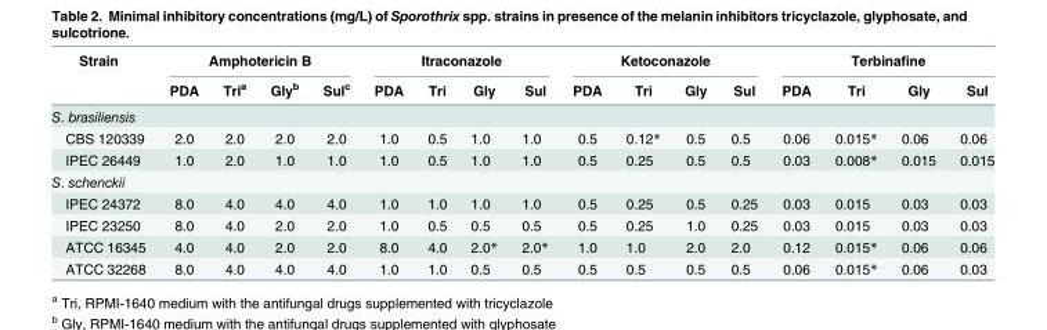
<table><thead><tr><td rowspan="2">Strain</td><td colspan="4">Amphotericin B</td><td colspan="4">Itraconazole</td><td colspan="4">Ketoconazole</td><td colspan="4">Terbinafine</td></tr><tr><td>PDA</td><td>Tri<sup>a</sup></td><td>Gly<sup>b</sup></td><td>Sul<sup>c</sup></td><td>PDA</td><td>Tri</td><td>Gly</td><td>Sul</td><td>PDA</td><td>Tri</td><td>Gly</td><td>Sul</td><td>PDA</td><td>Tri</td><td>Gly</td><td>Sul</td></tr></thead><tbody><tr><td colspan="17">S. brasiliensis</td></tr><tr><td>CBS 120339</td><td>2.0</td><td>2.0</td><td>2.0</td><td>2.0</td><td>1.0</td><td>0.5</td><td>1.0</td><td>1.0</td><td>0.5</td><td>0.12*</td><td>0.5</td><td>0.5</td><td>0.06</td><td>0.015*</td><td>0.06</td><td>0.06</td></tr><tr><td>IPEC 26449</td><td>1.0</td><td>2.0</td><td>1.0</td><td>1.0</td><td>1.0</td><td>0.5</td><td>1.0</td><td>1.0</td><td>0.5</td><td>0.25</td><td>0.5</td><td>0.5</td><td>0.03</td><td>0.008*</td><td>0.015</td><td>0.015</td></tr><tr><td colspan="17">S. schenckii</td></tr><tr><td>IPEC 24372</td><td>8.0</td><td>4.0</td><td>4.0</td><td>4.0</td><td>1.0</td><td>1.0</td><td>1.0</td><td>1.0</td><td>0.5</td><td>0.25</td><td>0.5</td><td>0.25</td><td>0.03</td><td>0.015</td><td>0.03</td><td>0.03</td></tr><tr><td>IPEC 23250</td><td>8.0</td><td>4.0</td><td>2.0</td><td>2.0</td><td>1.0</td><td>0.5</td><td>0.5</td><td>0.5</td><td>0.5</td><td>0.25</td><td>1.0</td><td>0.25</td><td>0.03</td><td>0.015</td><td>0.03</td><td>0.03</td></tr><tr><td>ATCC 16345</td><td>4.0</td><td>4.0</td><td>2.0</td><td>2.0</td><td>8.0</td><td>4.0</td><td>2.0*</td><td>2.0*</td><td>1.0</td><td>1.0</td><td>2.0</td><td>2.0</td><td>0.12</td><td>0.015*</td><td>0.06</td><td>0.06</td></tr><tr><td>ATCC 32268</td><td>8.0</td><td>4.0</td><td>4.0</td><td>4.0</td><td>1.0</td><td>1.0</td><td>0.5</td><td>0.5</td><td>0.5</td><td>0.5</td><td>0.5</td><td>0.5</td><td>0.06</td><td>0.015*</td><td>0.06</td><td>0.03</td></tr></tbody></table>